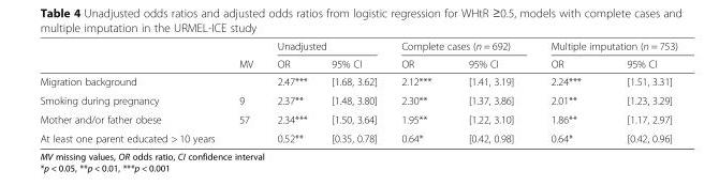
<table><thead><tr><td rowspan="2"></td><td rowspan="2">MV</td><td colspan="2">Unadjusted</td><td colspan="2">Complete cases (n = 692)</td><td colspan="2">Multiple imputation (n = 753)</td></tr><tr><td>OR</td><td>95% CI</td><td>OR</td><td>95% CI</td><td>OR</td><td>95% CI</td></tr></thead><tbody><tr><td>Migration background</td><td></td><td>2.47***</td><td>[1.68, 3.62]</td><td>2.12***</td><td>[1.41, 3.19]</td><td>2.24***</td><td>[1.51, 3.31]</td></tr><tr><td>Smoking during pregnancy</td><td>9</td><td>2.37**</td><td>[1.48, 3.80]</td><td>2.30**</td><td>[1.37, 3.86]</td><td>2.01**</td><td>[1.23, 3.29]</td></tr><tr><td>Mother and/or father obese</td><td>57</td><td>2.34***</td><td>[1.50, 3.64]</td><td>1.95**</td><td>[1.22, 3.10]</td><td>1.86**</td><td>[1.17, 2.97]</td></tr><tr><td>At least one parent educated &gt; 10 years</td><td></td><td>0.52**</td><td>[0.35, 0.78]</td><td>0.64*</td><td>[0.42, 0.98]</td><td>0.64*</td><td>[0.42, 0.96]</td></tr></tbody></table>